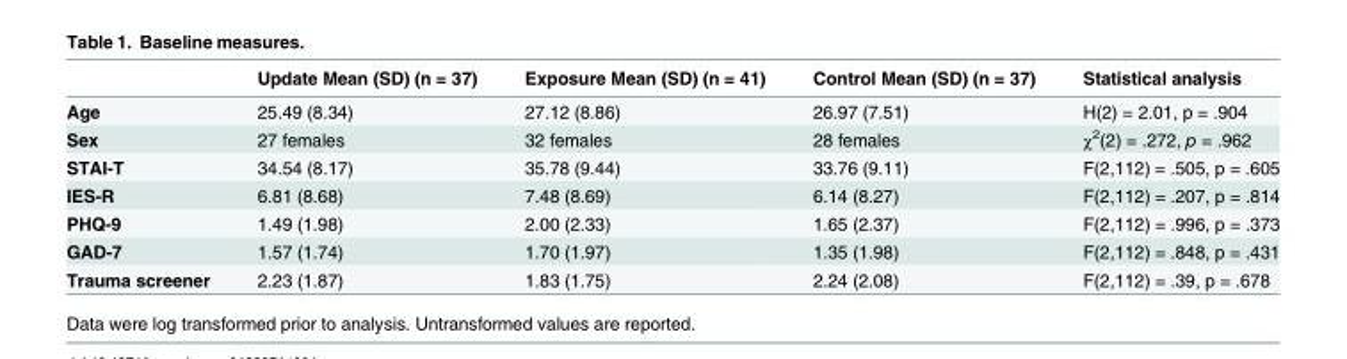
<table><thead><tr><td></td><td>Update Mean (SD) (n = 37)</td><td>Exposure Mean (SD) (n = 41)</td><td>Control Mean (SD) (n = 37)</td><td>Statistical analysis</td></tr></thead><tbody><tr><td>Age</td><td>25.49 (8.34)</td><td>27.12 (8.86)</td><td>26.97 (7.51)</td><td>H(2) = 2.01, p = .904</td></tr><tr><td>Sex</td><td>27 females</td><td>32 females</td><td>28 females</td><td>χ<sup>2</sup>(2) = .272, p = .962</td></tr><tr><td>STAI-T</td><td>34.54 (8.17)</td><td>35.78 (9.44)</td><td>33.76 (9.11)</td><td>F(2,112) = .505, p = .605</td></tr><tr><td>IES-R</td><td>6.81 (8.68)</td><td>7.48 (8.69)</td><td>6.14 (8.27)</td><td>F(2,112) = .207, p = .814</td></tr><tr><td>PHQ-9</td><td>1.49 (1.98)</td><td>2.00 (2.33)</td><td>1.65 (2.37)</td><td>F(2,112) = .996, p = .373</td></tr><tr><td>GAD-7</td><td>1.57 (1.74)</td><td>1.70 (1.97)</td><td>1.35 (1.98)</td><td>F(2,112) = .848, p = .431</td></tr><tr><td>Trauma screener</td><td>2.23 (1.87)</td><td>1.83 (1.75)</td><td>2.24 (2.08)</td><td>F(2,112) = .39, p = .678</td></tr></tbody></table>